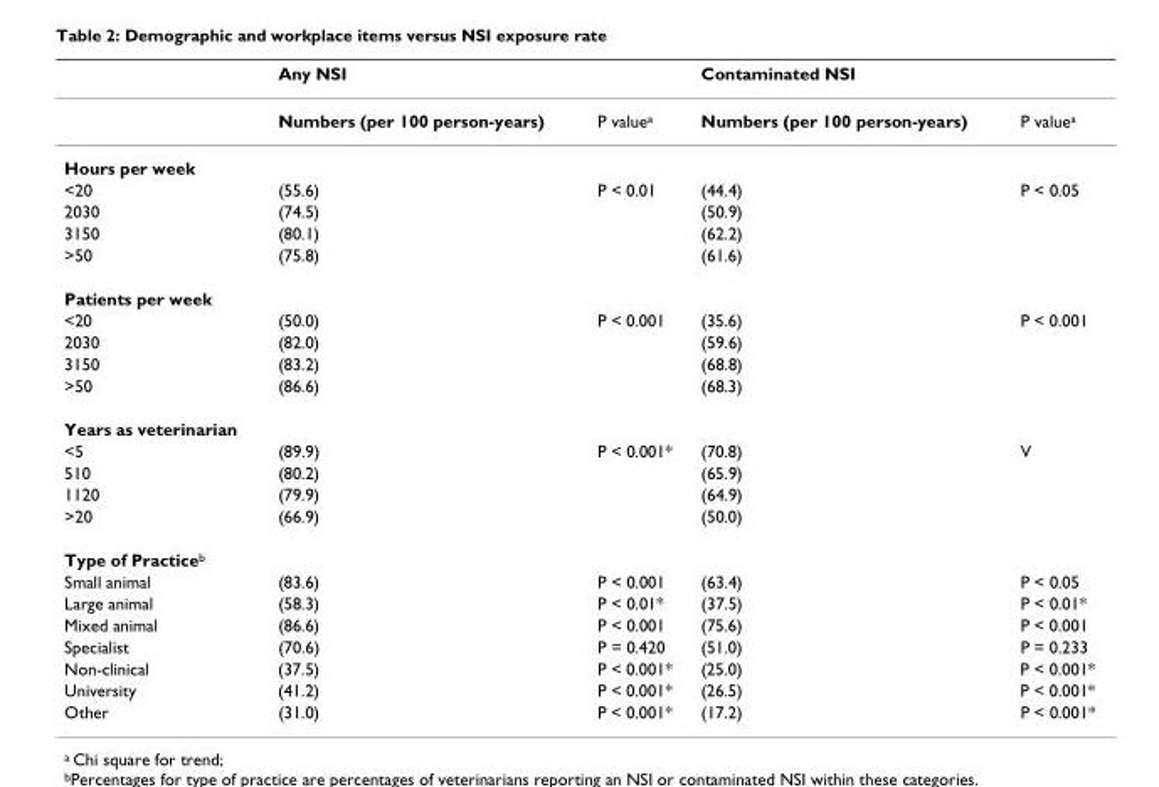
<table><thead><tr><td rowspan="2"></td><td colspan="2">Any NSI</td><td colspan="2">Contaminated NSI</td></tr><tr><td>Numbers (per 100 person-years)</td><td>P value<sup>a</sup></td><td>Numbers (per 100 person-years)</td><td>P value<sup>a</sup></td></tr></thead><tbody><tr><td colspan="5">Hours per week</td></tr><tr><td>&lt;20</td><td>(55.6)</td><td>P &lt; 0.01</td><td>(44.4)</td><td>P &lt; 0.05</td></tr><tr><td>2030</td><td>(74.5)</td><td></td><td>(50.9)</td><td></td></tr><tr><td>3150</td><td>(80.1)</td><td></td><td>(62.2)</td><td></td></tr><tr><td>&gt;50</td><td>(75.8)</td><td></td><td>(61.6)</td><td></td></tr><tr><td colspan="5">Patients per week</td></tr><tr><td>&lt;20</td><td>(50.0)</td><td>P &lt; 0.001</td><td>(35.6)</td><td>P &lt; 0.001</td></tr><tr><td>2030</td><td>(82.0)</td><td></td><td>(59.6)</td><td></td></tr><tr><td>3150</td><td>(83.2)</td><td></td><td>(68.8)</td><td></td></tr><tr><td>&gt;50</td><td>(86.6)</td><td></td><td>(68.3)</td><td></td></tr><tr><td colspan="5">Years as veterinarian</td></tr><tr><td>&lt;5</td><td>(89.9)</td><td>P &lt; 0.001*</td><td>(70.8)</td><td>V</td></tr><tr><td>510</td><td>(80.2)</td><td></td><td>(65.9)</td><td></td></tr><tr><td>1120</td><td>(79.9)</td><td></td><td>(64.9)</td><td></td></tr><tr><td>&gt;20</td><td>(66.9)</td><td></td><td>(50.0)</td><td></td></tr><tr><td colspan="5">Type of Practice<sup>b</sup></td></tr><tr><td>Small animal</td><td>(83.6)</td><td>P &lt; 0.001</td><td>(63.4)</td><td>P &lt; 0.05</td></tr><tr><td>Large animal</td><td>(58.3)</td><td>P &lt; 0.01*</td><td>(37.5)</td><td>P &lt; 0.01*</td></tr><tr><td>Mixed animal</td><td>(86.6)</td><td>P &lt; 0.001</td><td>(75.6)</td><td>P &lt; 0.001</td></tr><tr><td>Specialist</td><td>(70.6)</td><td>P = 0.420</td><td>(51.0)</td><td>P = 0.233</td></tr><tr><td>Non-clinical</td><td>(37.5)</td><td>P &lt; 0.001*</td><td>(25.0)</td><td>P &lt; 0.001*</td></tr><tr><td>University</td><td>(41.2)</td><td>P &lt; 0.001*</td><td>(26.5)</td><td>P &lt; 0.001*</td></tr><tr><td>Other</td><td>(31.0)</td><td>P &lt; 0.001*</td><td>(17.2)</td><td>P &lt; 0.001*</td></tr></tbody></table>